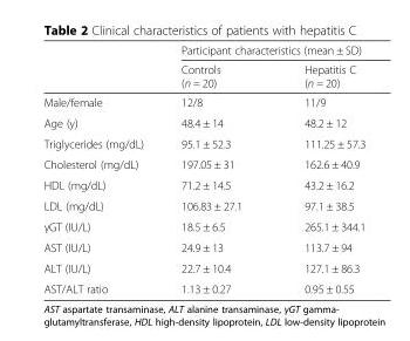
<table><thead><tr><td rowspan="2"></td><td colspan="2">Participant characteristics (mean ± SD)</td></tr><tr><td>Controls (n = 20)</td><td>Hepatitis C (n = 20)</td></tr></thead><tbody><tr><td>Male/female</td><td>12/8</td><td>11/9</td></tr><tr><td>Age (y)</td><td>48.4 ± 14</td><td>48.2 ± 12</td></tr><tr><td>Triglycerides (mg/dL)</td><td>95.1 ± 52.3</td><td>111.25 ± 57.3</td></tr><tr><td>Cholesterol (mg/dL)</td><td>197.05 ± 31</td><td>162.6 ± 40.9</td></tr><tr><td>HDL (mg/dL)</td><td>71.2 ± 14.5</td><td>43.2 ± 16.2</td></tr><tr><td>LDL (mg/dL)</td><td>106.83 ± 27.1</td><td>97.1 ± 38.5</td></tr><tr><td>γGT (IU/L)</td><td>18.5 ± 6.5</td><td>265.1 ± 344.1</td></tr><tr><td>AST (IU/L)</td><td>24.9 ± 13</td><td>113.7 ± 94</td></tr><tr><td>ALT (IU/L)</td><td>22.7 ± 10.4</td><td>127.1 ± 86.3</td></tr><tr><td>AST/ALT ratio</td><td>1.13 ± 0.27</td><td>0.95 ± 0.55</td></tr></tbody></table>